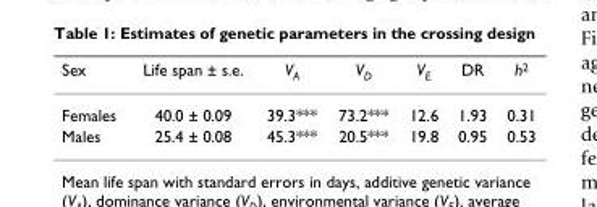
<table><thead><tr><td>Sex</td><td>Life span ± s.e.</td><td>V<sub>A</sub></td><td>V<sub>D</sub></td><td>V<sub>E</sub></td><td>DR</td><td>h<sup>2</sup></td></tr></thead><tbody><tr><td>Females</td><td>40.0 ± 0.09</td><td>39.3***</td><td>73.2***</td><td>12.6</td><td>1.93</td><td>0.31</td></tr><tr><td>Males</td><td>25.4 ± 0.08</td><td>45.3***</td><td>20.5***</td><td>19.8</td><td>0.95</td><td>0.53</td></tr></tbody></table>